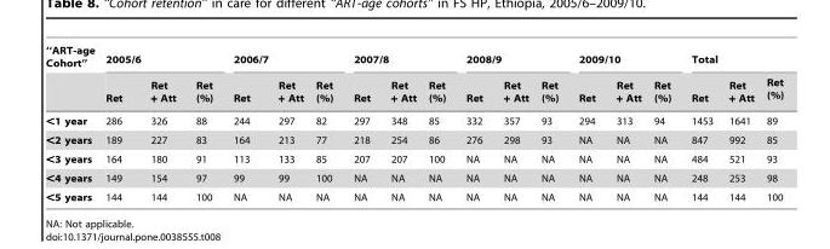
<table><thead><tr><td rowspan="2">‘‘ART-age Cohort’’</td><td colspan="3">2005/6</td><td colspan="3">2006/7</td><td colspan="3">2007/8</td><td colspan="3">2008/9</td><td colspan="3">2009/10</td><td colspan="3">Total</td></tr><tr><td>Ret</td><td>Ret + Att</td><td>Ret (%)</td><td>Ret</td><td>Ret + Att</td><td>Ret (%)</td><td>Ret</td><td>Ret + Att</td><td>Ret (%)</td><td>Ret</td><td>Ret + Att</td><td>Ret (%)</td><td>Ret</td><td>Ret + Att</td><td>Ret (%)</td><td>Ret</td><td>Ret + Att</td><td>Ret (%)</td></tr></thead><tbody><tr><td>&lt;1 year</td><td>286</td><td>326</td><td>88</td><td>244</td><td>297</td><td>82</td><td>297</td><td>348</td><td>85</td><td>332</td><td>357</td><td>93</td><td>294</td><td>313</td><td>94</td><td>1453</td><td>1641</td><td>89</td></tr><tr><td>&lt;2 years</td><td>189</td><td>227</td><td>83</td><td>164</td><td>213</td><td>77</td><td>218</td><td>254</td><td>86</td><td>276</td><td>298</td><td>93</td><td>NA</td><td>NA</td><td>NA</td><td>847</td><td>992</td><td>85</td></tr><tr><td>&lt;3 years</td><td>164</td><td>180</td><td>91</td><td>113</td><td>133</td><td>85</td><td>207</td><td>207</td><td>100</td><td>NA</td><td>NA</td><td>NA</td><td>NA</td><td>NA</td><td>NA</td><td>484</td><td>521</td><td>93</td></tr><tr><td>&lt;4 years</td><td>149</td><td>154</td><td>97</td><td>99</td><td>99</td><td>100</td><td>NA</td><td>NA</td><td>NA</td><td>NA</td><td>NA</td><td>NA</td><td>NA</td><td>NA</td><td>NA</td><td>248</td><td>253</td><td>98</td></tr><tr><td>&lt;5 years</td><td>144</td><td>144</td><td>100</td><td>NA</td><td>NA</td><td>NA</td><td>NA</td><td>NA</td><td>NA</td><td>NA</td><td>NA</td><td>NA</td><td>NA</td><td>NA</td><td>NA</td><td>144</td><td>144</td><td>100</td></tr></tbody></table>